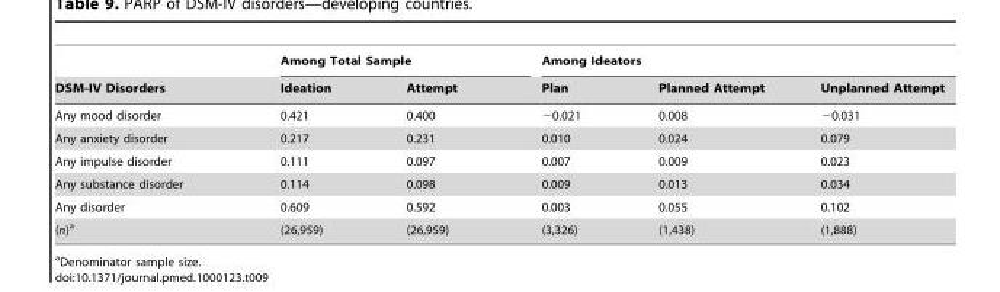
<table><thead><tr><td rowspan="2">DSM-IV Disorders</td><td colspan="2">Among Total Sample</td><td colspan="3">Among Ideators</td></tr><tr><td>Ideation</td><td>Attempt</td><td>Plan</td><td>Planned Attempt</td><td>Unplanned Attempt</td></tr></thead><tbody><tr><td>Any mood disorder</td><td>0.421</td><td>0.400</td><td>−0.021</td><td>0.008</td><td>−0.031</td></tr><tr><td>Any anxiety disorder</td><td>0.217</td><td>0.231</td><td>0.010</td><td>0.024</td><td>0.079</td></tr><tr><td>Any impulse disorder</td><td>0.111</td><td>0.097</td><td>0.007</td><td>0.009</td><td>0.023</td></tr><tr><td>Any substance disorder</td><td>0.114</td><td>0.098</td><td>0.009</td><td>0.013</td><td>0.034</td></tr><tr><td>Any disorder</td><td>0.609</td><td>0.592</td><td>0.003</td><td>0.055</td><td>0.102</td></tr><tr><td>(n)<sup>a</sup></td><td>(26,959)</td><td>(26,959)</td><td>(3,326)</td><td>(1,438)</td><td>(1,888)</td></tr></tbody></table>